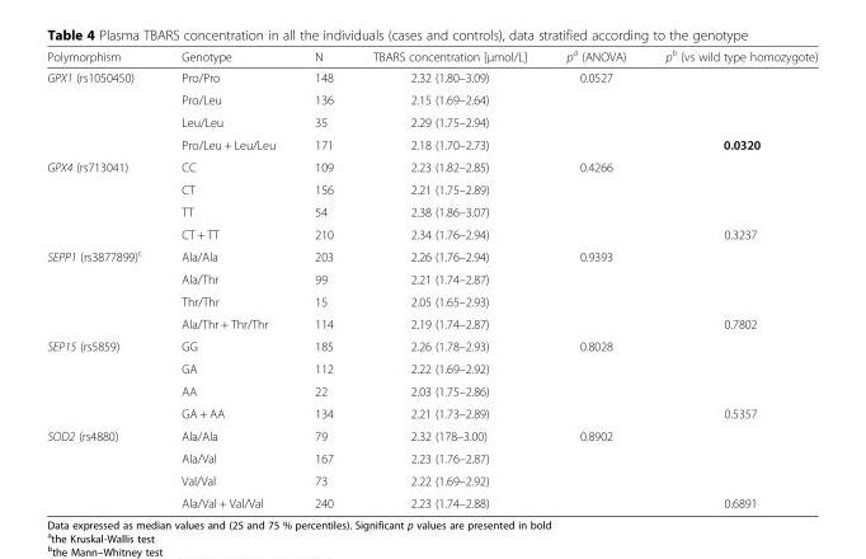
<table><thead><tr><td>Polymorphism</td><td>Genotype</td><td>N</td><td>TBARS concentration [μmol/L]</td><td>p<sup>a</sup> (ANOVA)</td><td>p<sup>b</sup> (vs wild type homozygote)</td></tr></thead><tbody><tr><td rowspan="4">GPX1 (rs1050450)</td><td>Pro/Pro</td><td>148</td><td>2.32 (1.80–3.09)</td><td rowspan="3">0.0527</td><td rowspan="3"></td></tr><tr><td>Pro/Leu</td><td>136</td><td>2.15 (1.69–2.64)</td></tr><tr><td>Leu/Leu</td><td>35</td><td>2.29 (1.75–2.94)</td></tr><tr><td>Pro/Leu + Leu/Leu</td><td>171</td><td>2.18 (1.70–2.73)</td><td></td><td>0.0320</td></tr><tr><td rowspan="4">GPX4 (rs713041)</td><td>CC</td><td>109</td><td>2.23 (1.82–2.85)</td><td rowspan="3">0.4266</td><td rowspan="3"></td></tr><tr><td>CT</td><td>156</td><td>2.21 (1.75–2.89)</td></tr><tr><td>TT</td><td>54</td><td>2.38 (1.86–3.07)</td></tr><tr><td>CT + TT</td><td>210</td><td>2.34 (1.76–2.94)</td><td></td><td>0.3237</td></tr><tr><td rowspan="4">SEPP1 (rs3877899)<sup>c</sup></td><td>Ala/Ala</td><td>203</td><td>2.26 (1.76–2.94)</td><td rowspan="3">0.9393</td><td rowspan="3"></td></tr><tr><td>Ala/Thr</td><td>99</td><td>2.21 (1.74–2.87)</td></tr><tr><td>Thr/Thr</td><td>15</td><td>2.05 (1.65–2.93)</td></tr><tr><td>Ala/Thr + Thr/Thr</td><td>114</td><td>2.19 (1.74–2.87)</td><td></td><td>0.7802</td></tr><tr><td rowspan="4">SEP15 (rs5859)</td><td>GG</td><td>185</td><td>2.26 (1.78–2.93)</td><td rowspan="3">0.8028</td><td rowspan="3"></td></tr><tr><td>GA</td><td>112</td><td>2.22 (1.69–2.92)</td></tr><tr><td>AA</td><td>22</td><td>2.03 (1.75–2.86)</td></tr><tr><td>GA + AA</td><td>134</td><td>2.21 (1.73–2.89)</td><td></td><td>0.5357</td></tr><tr><td rowspan="4">SOD2 (rs4880)</td><td>Ala/Ala</td><td>79</td><td>2.32 (178–3.00)</td><td rowspan="3">0.8902</td><td rowspan="3"></td></tr><tr><td>Ala/Val</td><td>167</td><td>2.23 (1.76–2.87)</td></tr><tr><td>Val/Val</td><td>73</td><td>2.22 (1.69–2.92)</td></tr><tr><td>Ala/Val + Val/Val</td><td>240</td><td>2.23 (1.74–2.88)</td><td></td><td>0.6891</td></tr></tbody></table>